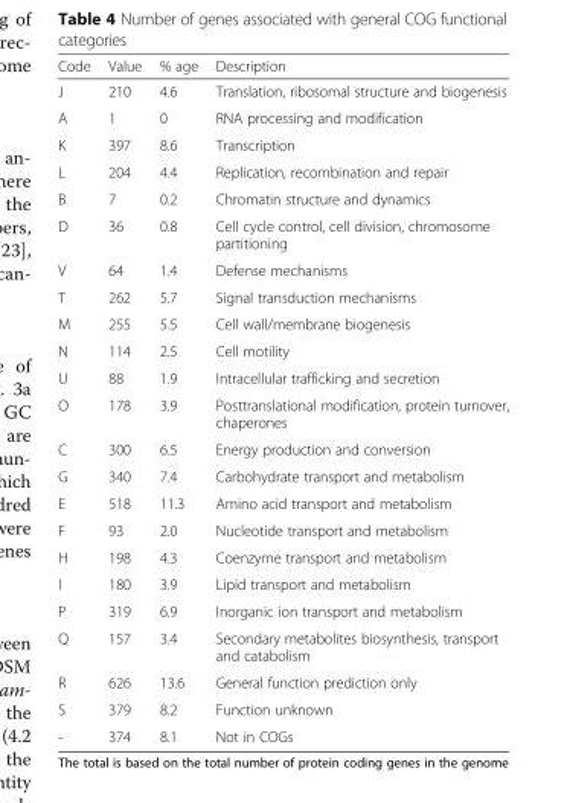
<table><thead><tr><td>Code</td><td>Value</td><td>% age</td><td>Description</td></tr></thead><tbody><tr><td>J</td><td>210</td><td>4.6</td><td>Translation, ribosomal structure and biogenesis</td></tr><tr><td>A</td><td>1</td><td>0</td><td>RNA processing and modification</td></tr><tr><td>K</td><td>397</td><td>8.6</td><td>Transcription</td></tr><tr><td>L</td><td>204</td><td>4.4</td><td>Replication, recombination and repair</td></tr><tr><td>B</td><td>7</td><td>0.2</td><td>Chromatin structure and dynamics</td></tr><tr><td>D</td><td>36</td><td>0.8</td><td>Cell cycle control, cell division, chromosome partitioning</td></tr><tr><td>V</td><td>64</td><td>1.4</td><td>Defense mechanisms</td></tr><tr><td>T</td><td>262</td><td>5.7</td><td>Signal transduction mechanisms</td></tr><tr><td>M</td><td>255</td><td>5.5</td><td>Cell wall/membrane biogenesis</td></tr><tr><td>N</td><td>114</td><td>2.5</td><td>Cell motility</td></tr><tr><td>U</td><td>88</td><td>1.9</td><td>Intracellular trafficking and secretion</td></tr><tr><td>O</td><td>178</td><td>3.9</td><td>Posttranslational modification, protein turnover, chaperones</td></tr><tr><td>C</td><td>300</td><td>6.5</td><td>Energy production and conversion</td></tr><tr><td>G</td><td>340</td><td>7.4</td><td>Carbohydrate transport and metabolism</td></tr><tr><td>E</td><td>518</td><td>11.3</td><td>Amino acid transport and metabolism</td></tr><tr><td>F</td><td>93</td><td>2.0</td><td>Nucleotide transport and metabolism</td></tr><tr><td>H</td><td>198</td><td>4.3</td><td>Coenzyme transport and metabolism</td></tr><tr><td>I</td><td>180</td><td>3.9</td><td>Lipid transport and metabolism</td></tr><tr><td>P</td><td>319</td><td>6.9</td><td>Inorganic ion transport and metabolism</td></tr><tr><td>Q</td><td>157</td><td>3.4</td><td>Secondary metabolites biosynthesis, transport and catabolism</td></tr><tr><td>R</td><td>626</td><td>13.6</td><td>General function prediction only</td></tr><tr><td>S</td><td>379</td><td>8.2</td><td>Function unknown</td></tr><tr><td>-</td><td>374</td><td>8.1</td><td>Not in COGs</td></tr></tbody></table>